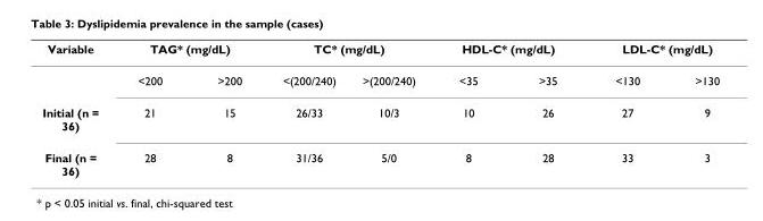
<table><thead><tr><td rowspan="2">Variable</td><td colspan="2">TAG* (mg/dL)</td><td colspan="2">TC* (mg/dL)</td><td colspan="2">HDL-C* (mg/dL)</td><td colspan="2">LDL-C* (mg/dL)</td></tr><tr><td>&lt;200</td><td>&gt;200</td><td>&lt;(200/240)</td><td>&gt;(200/240)</td><td>&lt;35</td><td>&gt;35</td><td>&lt;130</td><td>&gt;130</td></tr></thead><tbody><tr><td>Initial (n = 36)</td><td>21</td><td>15</td><td>26/33</td><td>10/3</td><td>10</td><td>26</td><td>27</td><td>9</td></tr><tr><td>Final (n = 36)</td><td>28</td><td>8</td><td>31/36</td><td>5/0</td><td>8</td><td>28</td><td>33</td><td>3</td></tr></tbody></table>